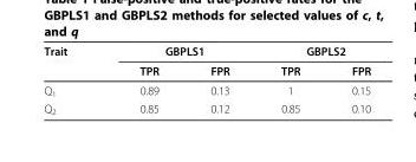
<table><thead><tr><td rowspan="2">Trait</td><td colspan="2">GBPLS1</td><td colspan="2">GBPLS2</td></tr><tr><td>TPR</td><td>FPR</td><td>TPR</td><td>FPR</td></tr></thead><tbody><tr><td>Q<sub>1</sub></td><td>0.89</td><td>0.13</td><td>1</td><td>0.15</td></tr><tr><td>Q<sub>2</sub></td><td>0.85</td><td>0.12</td><td>0.85</td><td>0.10</td></tr></tbody></table>